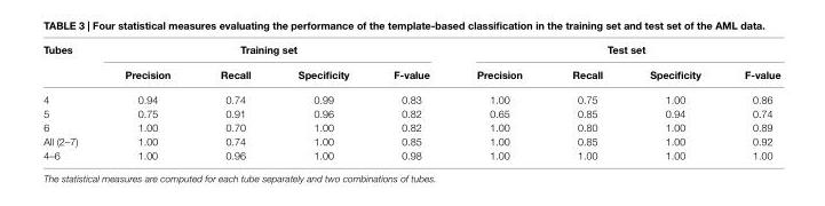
<table><thead><tr><td rowspan="2">Tubes</td><td colspan="4">Training set</td><td colspan="4">Test set</td></tr><tr><td>Precision</td><td>recall</td><td>specificity</td><td>F-value</td><td>Precision</td><td>recall</td><td>specificity</td><td>F-value</td></tr></thead><tbody><tr><td>4</td><td>0.94</td><td>0.74</td><td>0.99</td><td>0.83</td><td>1.00</td><td>0.75</td><td>1.00</td><td>0.86</td></tr><tr><td>5</td><td>0.75</td><td>0.91</td><td>0.96</td><td>0.82</td><td>0.65</td><td>0.85</td><td>0.94</td><td>0.74</td></tr><tr><td>6</td><td>1.00</td><td>0.70</td><td>1.00</td><td>0.82</td><td>1.00</td><td>0.80</td><td>1.00</td><td>0.89</td></tr><tr><td>All (2–7)</td><td>1.00</td><td>0.74</td><td>1.00</td><td>0.85</td><td>1.00</td><td>0.85</td><td>1.00</td><td>0.92</td></tr><tr><td>4–6</td><td>1.00</td><td>0.96</td><td>1.00</td><td>0.98</td><td>1.00</td><td>1.00</td><td>1.00</td><td>1.00</td></tr></tbody></table>